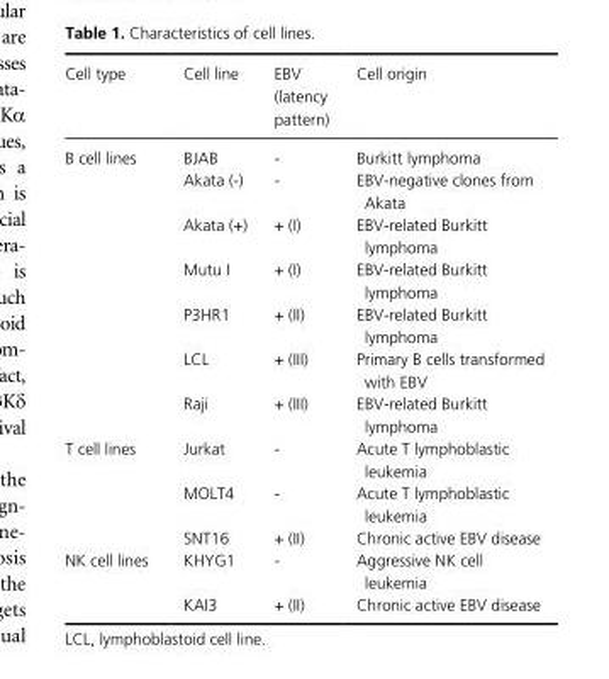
<table><thead><tr><td>Cell type</td><td>Cell line</td><td>EBV (latency pattern)</td><td>Cell origin</td></tr></thead><tbody><tr><td rowspan="7">B cell lines</td><td>BJAB</td><td>-</td><td>Burkitt lymphoma</td></tr><tr><td>Akata (- )</td><td>-</td><td>EBV- negative clones from Akata</td></tr><tr><td>Akata (+)</td><td>+ (I)</td><td>EBV- related Burkitt lymphoma</td></tr><tr><td>Mutu I</td><td>+ (I)</td><td>EBV- related Burkitt lymphoma</td></tr><tr><td>P3HR1</td><td>+ (II)</td><td>EBV- related Burkitt lymphoma</td></tr><tr><td>LCL</td><td>+ (III)</td><td>Primary B cells transformed with EBV</td></tr><tr><td>Raji</td><td>+ (III)</td><td>EBV- related Burkitt lymphoma</td></tr><tr><td rowspan="3">T cell lines</td><td>Jurkat</td><td>-</td><td>Acute T lymphoblastic leukemia</td></tr><tr><td>MOLT4</td><td>-</td><td>Acute T lymphoblastic leukemia</td></tr><tr><td>SNT16</td><td>+ (II)</td><td>Chronic active EBV disease</td></tr><tr><td rowspan="2">NK cell lines</td><td>KHYG1</td><td>-</td><td>Aggressive NK cell leukemia</td></tr><tr><td>KAI3</td><td>+ (II)</td><td>Chronic active EBV disease</td></tr></tbody></table>